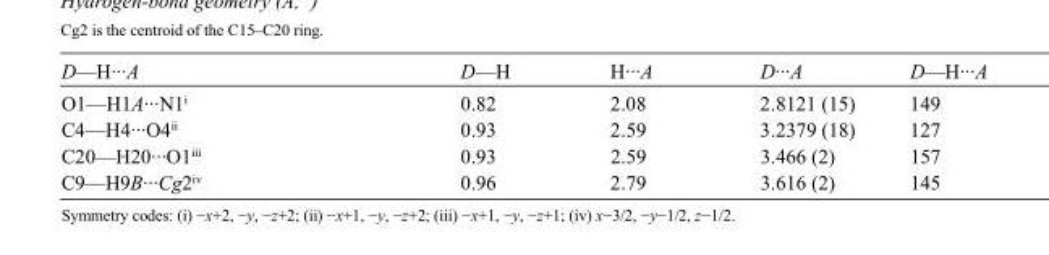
<table><tbody><tr><td>D—H···A</td><td>D—H</td><td>H···A</td><td>D···A</td><td>D—H···A</td></tr><tr><td>O1—H1A···N1<sup>i</sup></td><td>0.82</td><td>2.08</td><td>2.8121 (15)</td><td>149</td></tr><tr><td>C4—H4···O4<sup>ii</sup></td><td>0.93</td><td>2.59</td><td>3.2379 (18)</td><td>127</td></tr><tr><td>C20—H20···O1<sup>iii</sup></td><td>0.93</td><td>2.59</td><td>3.466 (2)</td><td>157</td></tr><tr><td>C9—H9B···Cg2<sup>iv</sup></td><td>0.96</td><td>2.79</td><td>3.616 (2)</td><td>145</td></tr></tbody></table>